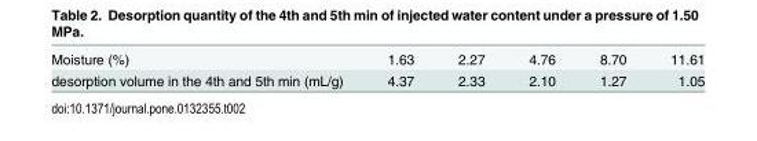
<table><tbody><tr><td>Moisture (%)</td><td>1.63</td><td>2.27</td><td>4.76</td><td>8.70</td><td>11.61</td></tr><tr><td>desorption volume in the 4th and 5th min (mL/g)</td><td>4.37</td><td>2.33</td><td>2.10</td><td>1.27</td><td>1.05</td></tr></tbody></table>